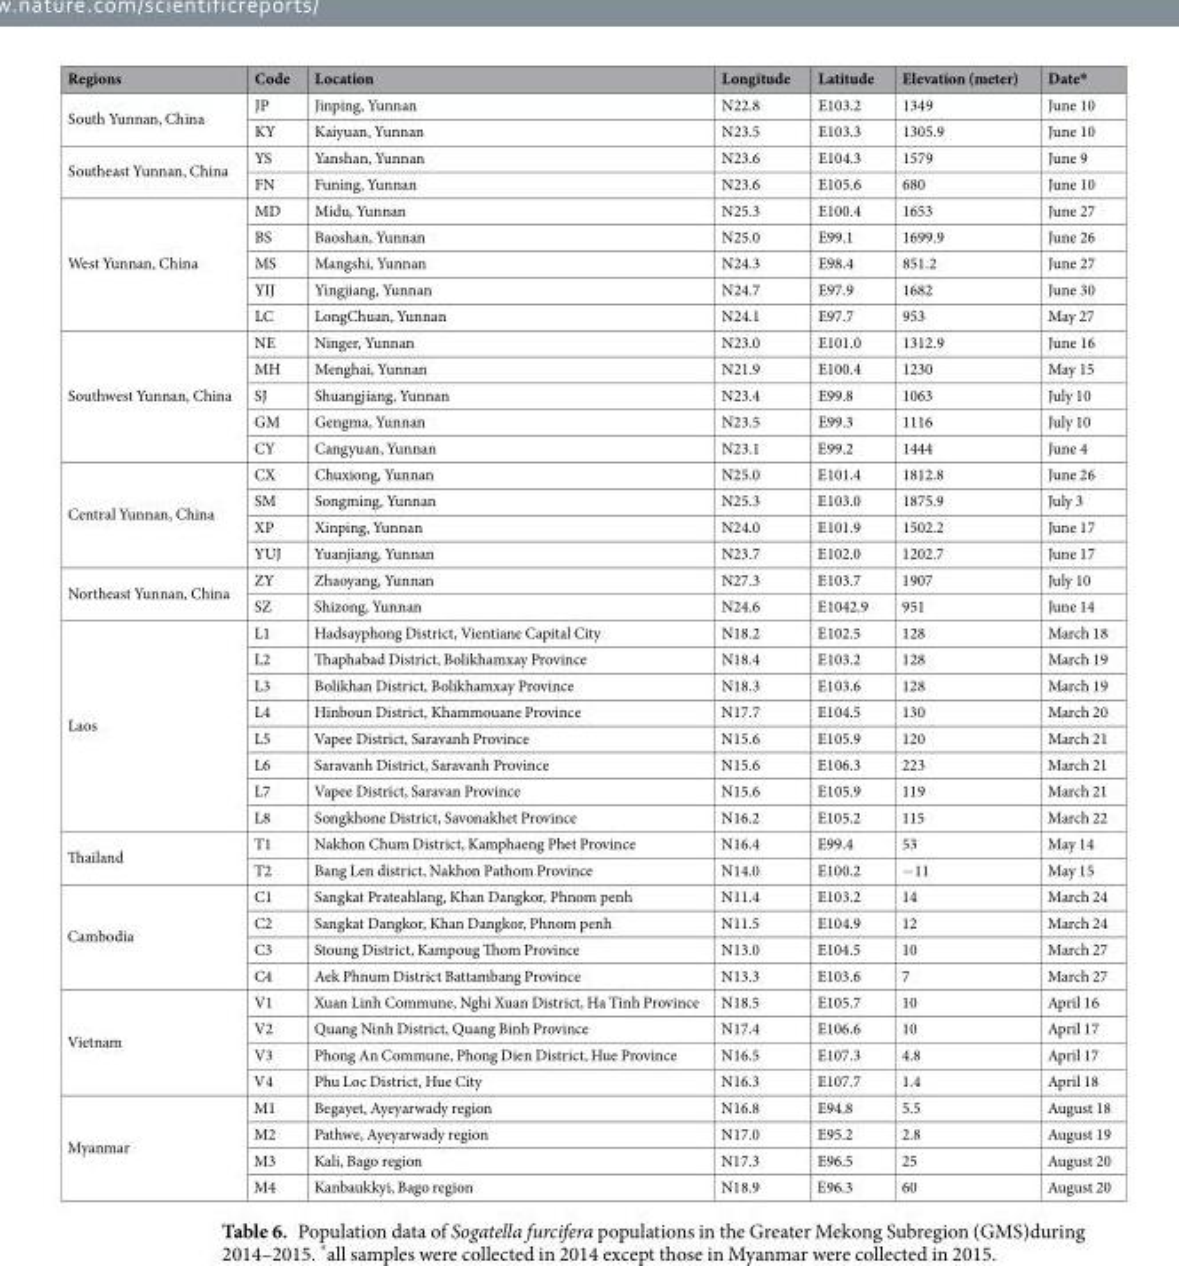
<table><thead><tr><td>Regions</td><td>Code</td><td>Location</td><td>Longitude</td><td>Latitude</td><td>Elevation (meter)</td><td>Date*</td></tr></thead><tbody><tr><td rowspan="2">South Yunnan, China</td><td>JP</td><td>Jinping, Yunnan</td><td>N22.8</td><td>E103.2</td><td>1349</td><td>June 10</td></tr><tr><td>KY</td><td>Kaiyuan, Yunnan</td><td>N23.5</td><td>E103.3</td><td>1305.9</td><td>June 10</td></tr><tr><td rowspan="2">Southeast Yunnan, China</td><td>YS</td><td>Yanshan, Yunnan</td><td>N23.6</td><td>E104.3</td><td>1579</td><td>June 9</td></tr><tr><td>FN</td><td>Funing, Yunnan</td><td>N23.6</td><td>E105.6</td><td>680</td><td>June 10</td></tr><tr><td rowspan="5">West Yunnan, China</td><td>MD</td><td>Midu, Yunnan</td><td>N25.3</td><td>E100.4</td><td>1653</td><td>June 27</td></tr><tr><td>BS</td><td>Baoshan, Yunnan</td><td>N25.0</td><td>E99.1</td><td>1699.9</td><td>June 26</td></tr><tr><td>MS</td><td>Mangshi, Yunnan</td><td>N24.3</td><td>E98.4</td><td>851.2</td><td>June 27</td></tr><tr><td>YIJ</td><td>Yingjiang, Yunnan</td><td>N24.7</td><td>E97.9</td><td>1682</td><td>June 30</td></tr><tr><td>LC</td><td>LongChuan, Yunnan</td><td>N24.1</td><td>E97.7</td><td>953</td><td>May 27</td></tr><tr><td rowspan="5">Southwest Yunnan, China</td><td>NE</td><td>Ninger, Yunnan</td><td>N23.0</td><td>E101.0</td><td>1312.9</td><td>June 16</td></tr><tr><td>MH</td><td>Menghai, Yunnan</td><td>N21.9</td><td>E100.4</td><td>1230</td><td>May 15</td></tr><tr><td>SJ</td><td>Shuangjiang, Yunnan</td><td>N23.4</td><td>E99.8</td><td>1063</td><td>July 10</td></tr><tr><td>GM</td><td>Gengma, Yunnan</td><td>N23.5</td><td>E99.3</td><td>1116</td><td>July 10</td></tr><tr><td>CY</td><td>Cangyuan, Yunnan</td><td>N23.1</td><td>E99.2</td><td>1444</td><td>June 4</td></tr><tr><td rowspan="4">Central Yunnan, China</td><td>CX</td><td>Chuxiong, Yunnan</td><td>N25.0</td><td>E101.4</td><td>1812.8</td><td>June 26</td></tr><tr><td>SM</td><td>Songming, Yunnan</td><td>N25.3</td><td>E103.0</td><td>1875.9</td><td>July 3</td></tr><tr><td>XP</td><td>Xinping, Yunnan</td><td>N24.0</td><td>E101.9</td><td>1502.2</td><td>June 17</td></tr><tr><td>YUJ</td><td>Yuanjiang, Yunnan</td><td>N23.7</td><td>E102.0</td><td>1202.7</td><td>June 17</td></tr><tr><td rowspan="2">Northeast Yunnan, China</td><td>ZY</td><td>Zhaoyang, Yunnan</td><td>N27.3</td><td>E103.7</td><td>1907</td><td>July 10</td></tr><tr><td>SZ</td><td>Shizong, Yunnan</td><td>N24.6</td><td>E1042.9</td><td>951</td><td>June 14</td></tr><tr><td rowspan="8">Laos</td><td>L1</td><td>Hadsayphong District, Vientiane Capital City</td><td>N18.2</td><td>E102.5</td><td>128</td><td>March 18</td></tr><tr><td>L2</td><td>Thaphabad District, Bolikhamxay Province</td><td>N18.4</td><td>E103.2</td><td>128</td><td>March 19</td></tr><tr><td>L3</td><td>Bolikhan District, Bolikhamxay Province</td><td>N18.3</td><td>E103.6</td><td>128</td><td>March 19</td></tr><tr><td>L4</td><td>Hinboun District, Khammouane Province</td><td>N17.7</td><td>E104.5</td><td>130</td><td>March 20</td></tr><tr><td>L5</td><td>Vapee District, Saravanh Province</td><td>N15.6</td><td>E105.9</td><td>120</td><td>March 21</td></tr><tr><td>L6</td><td>Saravanh District, Saravanh Province</td><td>N15.6</td><td>E106.3</td><td>223</td><td>March 21</td></tr><tr><td>L7</td><td>Vapee District, Saravan Province</td><td>N15.6</td><td>E105.9</td><td>119</td><td>March 21</td></tr><tr><td>L8</td><td>Songkhone District, Savonakhet Province</td><td>N16.2</td><td>E105.2</td><td>115</td><td>March 22</td></tr><tr><td rowspan="2">Thailand</td><td>T1</td><td>Nakhon Chum District, Kamphaeng Phet Province</td><td>N16.4</td><td>E99.4</td><td>53</td><td>May 14</td></tr><tr><td>T2</td><td>Bang Len district, Nakhon Pathom Province</td><td>N14.0</td><td>E100.2</td><td>−11</td><td>May 15</td></tr><tr><td rowspan="4">Cambodia</td><td>C1</td><td>Sangkat Prateahlang, Khan Dangkor, Phnom penh</td><td>N11.4</td><td>E103.2</td><td>14</td><td>March 24</td></tr><tr><td>C2</td><td>Sangkat Dangkor, Khan Dangkor, Phnom penh</td><td>N11.5</td><td>E104.9</td><td>12</td><td>March 24</td></tr><tr><td>C3</td><td>Stoung District, Kampoug Thom Province</td><td>N13.0</td><td>E104.5</td><td>10</td><td>March 27</td></tr><tr><td>C4</td><td>Aek Phnum District Battambang Province</td><td>N13.3</td><td>E103.6</td><td>7</td><td>March 27</td></tr><tr><td rowspan="4">Vietnam</td><td>V1</td><td>Xuan Linh Commune, Nghi Xuan District, Ha Tinh Province</td><td>N18.5</td><td>E105.7</td><td>10</td><td>April 16</td></tr><tr><td>V2</td><td>Quang Ninh District, Quang Binh Province</td><td>N17.4</td><td>E106.6</td><td>10</td><td>April 17</td></tr><tr><td>V3</td><td>Phong An Commune, Phong Dien District, Hue Province</td><td>N16.5</td><td>E107.3</td><td>4.8</td><td>April 17</td></tr><tr><td>V4</td><td>Phu Loc District, Hue City</td><td>N16.3</td><td>E107.7</td><td>1.4</td><td>April 18</td></tr><tr><td rowspan="4">Myanmar</td><td>M1</td><td>Begayet, Ayeyarwady region</td><td>N16.8</td><td>E94.8</td><td>5.5</td><td>August 18</td></tr><tr><td>M2</td><td>Pathwe, Ayeyarwady region</td><td>N17.0</td><td>E95.2</td><td>2.8</td><td>August 19</td></tr><tr><td>M3</td><td>Kali, Bago region</td><td>N17.3</td><td>E96.5</td><td>25</td><td>August 20</td></tr><tr><td>M4</td><td>Kanbaukkyi, Bago region</td><td>N18.9</td><td>E96.3</td><td>60</td><td>August 20</td></tr></tbody></table>